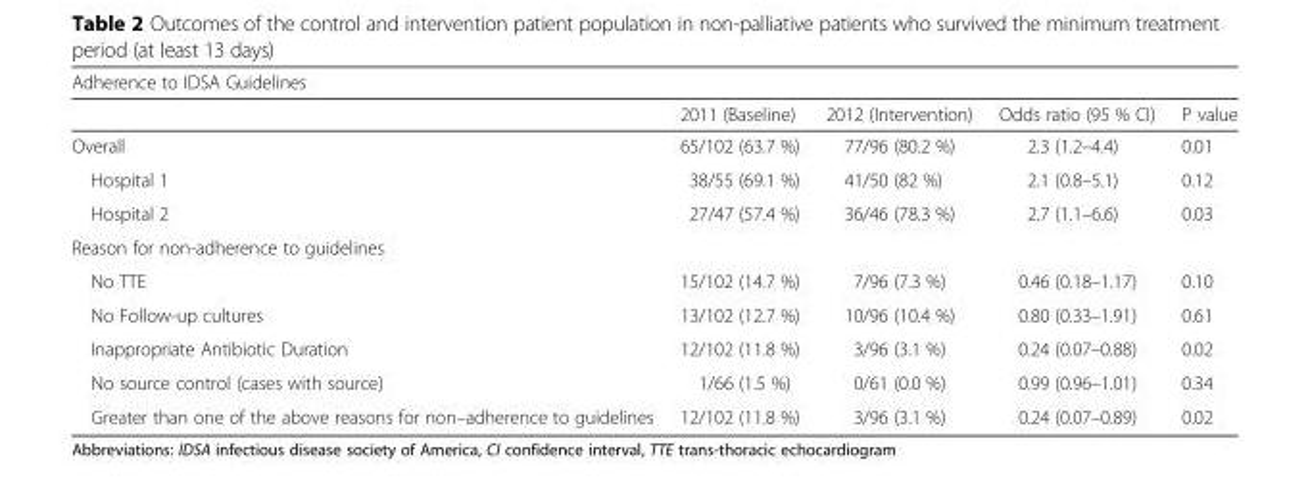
<table><thead><tr><td colspan="5">Adherence to IDSA Guidelines</td></tr><tr><td></td><td>2011 (Baseline)</td><td>2012 (Intervention)</td><td>Odds ratio (95 % CI)</td><td>P value</td></tr></thead><tbody><tr><td>Overall</td><td>65/102 (63.7 %)</td><td>77/96 (80.2 %)</td><td>2.3 (1.2–4.4)</td><td>0.01</td></tr><tr><td>Hospital 1</td><td>38/55 (69.1 %)</td><td>41/50 (82 %)</td><td>2.1 (0.8–5.1)</td><td>0.12</td></tr><tr><td>Hospital 2</td><td>27/47 (57.4 %)</td><td>36/46 (78.3 %)</td><td>2.7 (1.1–6.6)</td><td>0.03</td></tr><tr><td colspan="5">Reason for non-adherence to guidelines</td></tr><tr><td>No TTE</td><td>15/102 (14.7 %)</td><td>7/96 (7.3 %)</td><td>0.46 (0.18–1.17)</td><td>0.10</td></tr><tr><td>No Follow-up cultures</td><td>13/102 (12.7 %)</td><td>10/96 (10.4 %)</td><td>0.80 (0.33–1.91)</td><td>0.61</td></tr><tr><td>Inappropriate Antibiotic Duration</td><td>12/102 (11.8 %)</td><td>3/96 (3.1 %)</td><td>0.24 (0.07–0.88)</td><td>0.02</td></tr><tr><td>No source control (cases with source)</td><td>1/66 (1.5 %)</td><td>0/61 (0.0 %)</td><td>0.99 (0.96–1.01)</td><td>0.34</td></tr><tr><td>Greater than one of the above reasons for non–adherence to guidelines</td><td>12/102 (11.8 %)</td><td>3/96 (3.1 %)</td><td>0.24 (0.07–0.89)</td><td>0.02</td></tr></tbody></table>